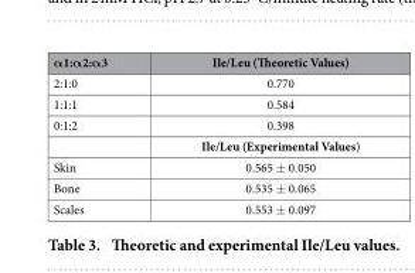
<table><thead><tr><td>α1:α2:α3</td><td>Ile/Leu (Theoretic Values)</td></tr></thead><tbody><tr><td>2:1:0</td><td>0.770</td></tr><tr><td>1:1:1</td><td>0.584</td></tr><tr><td rowspan="2">0:1:2</td><td>0.398</td></tr><tr><td>Ile/Leu (Experimental Values)</td></tr><tr><td>Skin</td><td>0.565 ± 0.050</td></tr><tr><td>Bone</td><td>0.535 ± 0.065</td></tr><tr><td>Scales</td><td>0.553 ± 0.097</td></tr></tbody></table>